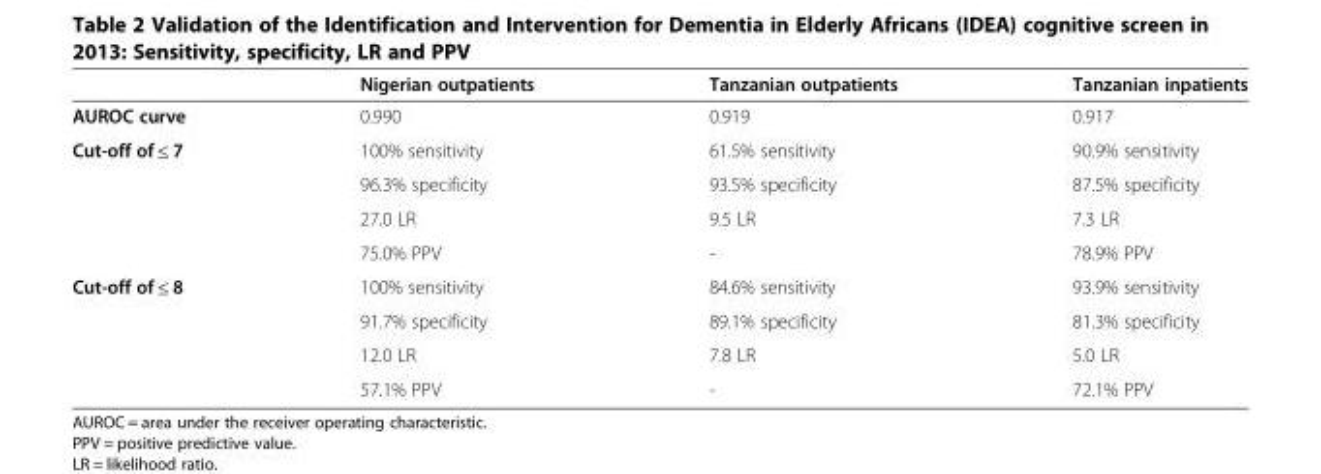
<table><thead><tr><td></td><td>Nigerian outpatients</td><td>Tanzanian outpatients</td><td>Tanzanian inpatients</td></tr></thead><tbody><tr><td>AUROC curve</td><td>0.990</td><td>0.919</td><td>0.917</td></tr><tr><td rowspan="4">Cut-off of ≤ 7</td><td>100% sensitivity</td><td>61.5% sensitivity</td><td>90.9% sensitivity</td></tr><tr><td>96.3% specificity</td><td>93.5% specificity</td><td>87.5% specificity</td></tr><tr><td>27.0 LR</td><td>9.5 LR</td><td>7.3 LR</td></tr><tr><td>75.0% PPV</td><td>-</td><td>78.9% PPV</td></tr><tr><td rowspan="4">Cut-off of ≤ 8</td><td>100% sensitivity</td><td>84.6% sensitivity</td><td>93.9% sensitivity</td></tr><tr><td>91.7% specificity</td><td>89.1% specificity</td><td>81.3% specificity</td></tr><tr><td>12.0 LR</td><td>7.8 LR</td><td>5.0 LR</td></tr><tr><td>57.1% PPV</td><td>-</td><td>72.1% PPV</td></tr></tbody></table>